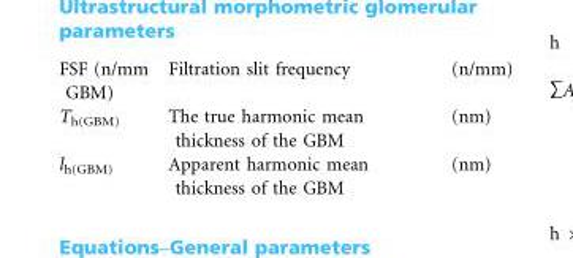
<table><tbody><tr><td>FSF (n/mm GBM)</td><td>Filtration slit frequency</td><td>(n/mm)</td></tr><tr><td>T<sub>h(GBM)</sub></td><td>The true harmonic mean thickness of the GBM</td><td>(nm)</td></tr><tr><td>l<sub>h(GBM)</sub></td><td>Apparent harmonic mean thickness of the GBM</td><td>(nm)</td></tr></tbody></table>